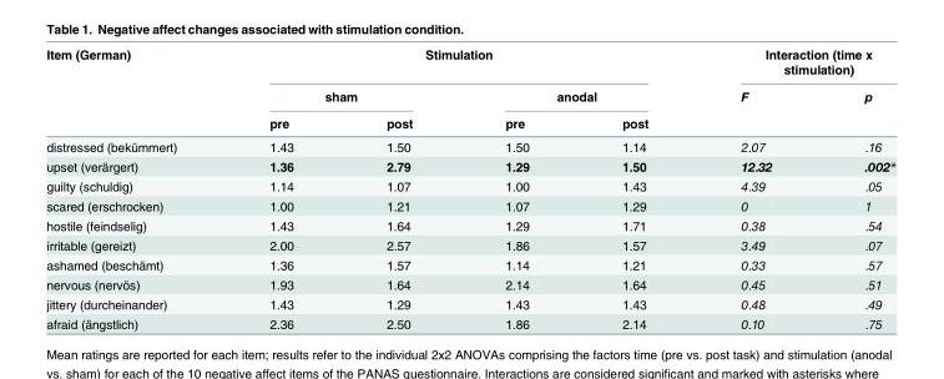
<table><thead><tr><td rowspan="3">Item (German)</td><td colspan="4">Stimulation</td><td colspan="2">Interaction (time x stimulation)</td></tr><tr><td colspan="2">sham</td><td colspan="2">anodal</td><td rowspan="2">F</td><td rowspan="2">p</td></tr><tr><td>pre</td><td>post</td><td>pre</td><td>post</td></tr></thead><tbody><tr><td>distressed (bekümmert)</td><td>1.43</td><td>1.50</td><td>1.50</td><td>1.14</td><td>2.07</td><td>.16</td></tr><tr><td>upset (verärgert)</td><td>1.36</td><td>2.79</td><td>1.29</td><td>1.50</td><td>12.32</td><td>.002*</td></tr><tr><td>guilty (schuldig)</td><td>1.14</td><td>1.07</td><td>1.00</td><td>1.43</td><td>4.39</td><td>.05</td></tr><tr><td>scared (erschrocken)</td><td>1.00</td><td>1.21</td><td>1.07</td><td>1.29</td><td>0</td><td>1</td></tr><tr><td>hostile (feindselig)</td><td>1.43</td><td>1.64</td><td>1.29</td><td>1.71</td><td>0.38</td><td>.54</td></tr><tr><td>irritable (gereizt)</td><td>2.00</td><td>2.57</td><td>1.86</td><td>1.57</td><td>3.49</td><td>.07</td></tr><tr><td>ashamed (beschämt)</td><td>1.36</td><td>1.57</td><td>1.14</td><td>1.21</td><td>0.33</td><td>.57</td></tr><tr><td>nervous (nervös)</td><td>1.93</td><td>1.64</td><td>2.14</td><td>1.64</td><td>0.45</td><td>.51</td></tr><tr><td>jittery (durcheinander)</td><td>1.43</td><td>1.29</td><td>1.43</td><td>1.43</td><td>0.48</td><td>.49</td></tr><tr><td>afraid (ängstlich)</td><td>2.36</td><td>2.50</td><td>1.86</td><td>2.14</td><td>0.10</td><td>.75</td></tr></tbody></table>